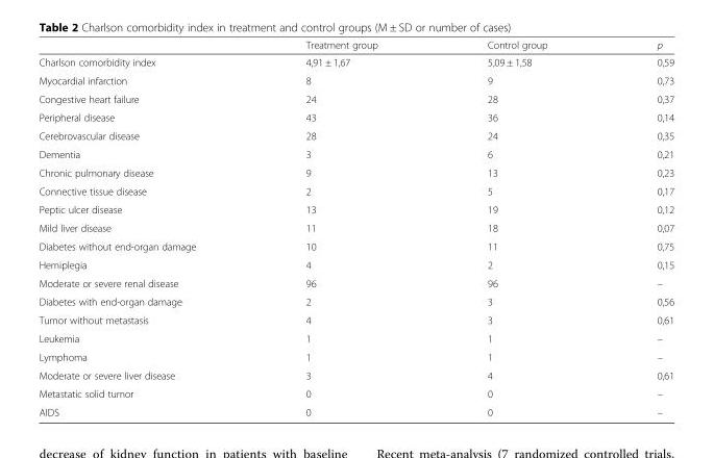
<table><thead><tr><td></td><td>Treatment group</td><td>Control group</td><td>p</td></tr></thead><tbody><tr><td>Charlson comorbidity index</td><td>4,91 ± 1,67</td><td>5,09 ± 1,58</td><td>0,59</td></tr><tr><td>Myocardial infarction</td><td>8</td><td>9</td><td>0,73</td></tr><tr><td>Congestive heart failure</td><td>24</td><td>28</td><td>0,37</td></tr><tr><td>Peripheral disease</td><td>43</td><td>36</td><td>0,14</td></tr><tr><td>Cerebrovascular disease</td><td>28</td><td>24</td><td>0,35</td></tr><tr><td>Dementia</td><td>3</td><td>6</td><td>0,21</td></tr><tr><td>Chronic pulmonary disease</td><td>9</td><td>13</td><td>0,23</td></tr><tr><td>Connective tissue disease</td><td>2</td><td>5</td><td>0,17</td></tr><tr><td>Peptic ulcer disease</td><td>13</td><td>19</td><td>0,12</td></tr><tr><td>Mild liver disease</td><td>11</td><td>18</td><td>0,07</td></tr><tr><td>Diabetes without end-organ damage</td><td>10</td><td>11</td><td>0,75</td></tr><tr><td>Hemiplegia</td><td>4</td><td>2</td><td>0,15</td></tr><tr><td>Moderate or severe renal disease</td><td>96</td><td>96</td><td>–</td></tr><tr><td>Diabetes with end-organ damage</td><td>2</td><td>3</td><td>0,56</td></tr><tr><td>Tumor without metastasis</td><td>4</td><td>3</td><td>0,61</td></tr><tr><td>Leukemia</td><td>1</td><td>1</td><td>–</td></tr><tr><td>Lymphoma</td><td>1</td><td>1</td><td>–</td></tr><tr><td>Moderate or severe liver disease</td><td>3</td><td>4</td><td>0,61</td></tr><tr><td>Metastatic solid tumor</td><td>0</td><td>0</td><td>–</td></tr><tr><td>AIDS</td><td>0</td><td>0</td><td>–</td></tr></tbody></table>